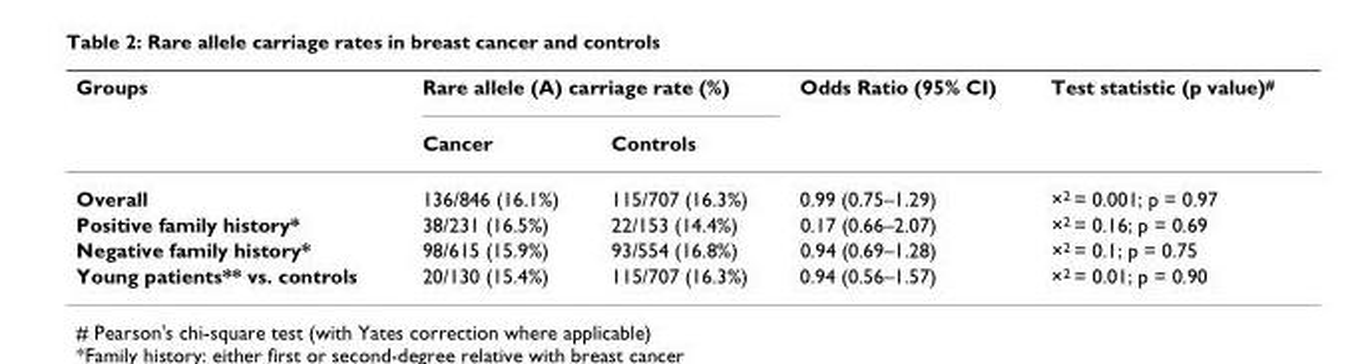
<table><thead><tr><td rowspan="2">Groups</td><td colspan="2">Rare allele (A) carriage rate (%)</td><td rowspan="2">Odds Ratio (95% CI)</td><td rowspan="2">Test statistic (p value)<sup>#</sup></td></tr><tr><td>Cancer</td><td>Controls</td></tr></thead><tbody><tr><td>Overall</td><td>136/846 (16.1%)</td><td>115/707 (16.3%)</td><td>0.99 (0.75–1.29)</td><td>×<sup>2</sup> = 0.001; p = 0.97</td></tr><tr><td>Positive family history*</td><td>38/231 (16.5%)</td><td>22/153 (14.4%)</td><td>0.17 (0.66–2.07)</td><td>×<sup>2</sup> = 0.16; p = 0.69</td></tr><tr><td>Negative family history*</td><td>98/615 (15.9%)</td><td>93/554 (16.8%)</td><td>0.94 (0.69–1.28)</td><td>×<sup>2</sup> = 0.1; p = 0.75</td></tr><tr><td>Young patients** vs. controls</td><td>20/130 (15.4%)</td><td>115/707 (16.3%)</td><td>0.94 (0.56–1.57)</td><td>×<sup>2</sup> = 0.01; p = 0.90</td></tr></tbody></table>